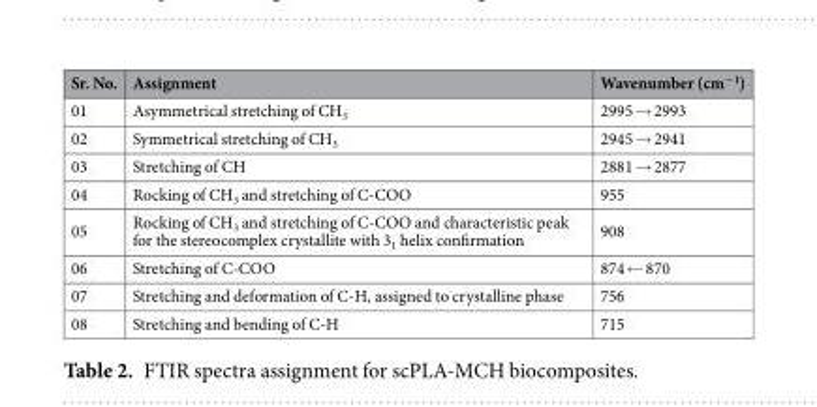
<table><thead><tr><td>Sr. No.</td><td>Assignment</td><td>Wavenumber (cm<sup>−1</sup>)</td></tr></thead><tbody><tr><td>01</td><td>Asymmetrical stretching of CH<sub>3</sub></td><td>2995 → 2993</td></tr><tr><td>02</td><td>Symmetrical stretching of CH<sub>3</sub></td><td>2945 → 2941</td></tr><tr><td>03</td><td>Stretching of CH</td><td>2881 → 2877</td></tr><tr><td>04</td><td>Rocking of CH<sub>3</sub> and stretching of C-COO</td><td>955</td></tr><tr><td>05</td><td>Rocking of CH<sub>3</sub> and stretching of C-COO and characteristic peak for the stereocomplex crystallite with 3<sub>1</sub> helix confirmation</td><td>908</td></tr><tr><td>06</td><td>Stretching of C-COO</td><td>874 ← 870</td></tr><tr><td>07</td><td>Stretching and deformation of C-H, assigned to crystalline phase</td><td>756</td></tr><tr><td>08</td><td>Stretching and bending of C-H</td><td>715</td></tr></tbody></table>